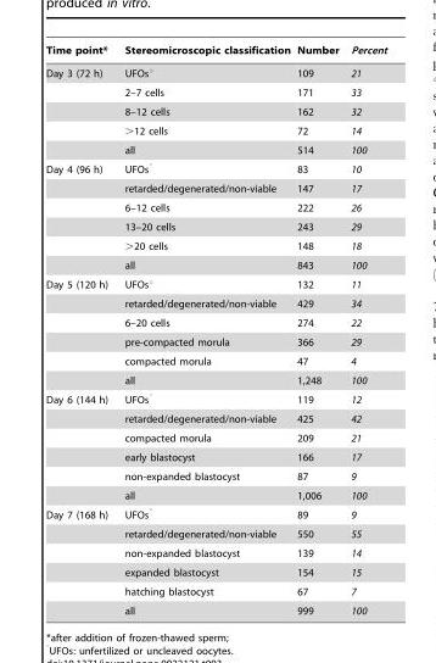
<table><thead><tr><td>Time point*</td><td>Stereomicroscopic classification</td><td>Number</td><td>Percent</td></tr></thead><tbody><tr><td rowspan="5">Day 3 (72 h)</td><td>UFOs°</td><td>109</td><td>21</td></tr><tr><td>2–7 cells</td><td>171</td><td>33</td></tr><tr><td>8–12 cells</td><td>162</td><td>32</td></tr><tr><td>&gt;12 cells</td><td>72</td><td>14</td></tr><tr><td>all</td><td>514</td><td>100</td></tr><tr><td rowspan="6">Day 4 (96 h)</td><td>UFOs°</td><td>83</td><td>10</td></tr><tr><td>retarded/degenerated/non-viable</td><td>147</td><td>17</td></tr><tr><td>6–12 cells</td><td>222</td><td>26</td></tr><tr><td>13–20 cells</td><td>243</td><td>29</td></tr><tr><td>&gt;20 cells</td><td>148</td><td>18</td></tr><tr><td>all</td><td>843</td><td>100</td></tr><tr><td rowspan="6">Day 5 (120 h)</td><td>UFOs°</td><td>132</td><td>11</td></tr><tr><td>retarded/degenerated/non-viable</td><td>429</td><td>34</td></tr><tr><td>6–20 cells</td><td>274</td><td>22</td></tr><tr><td>pre-compacted morula</td><td>366</td><td>29</td></tr><tr><td>compacted morula</td><td>47</td><td>4</td></tr><tr><td>all</td><td>1,248</td><td>100</td></tr><tr><td rowspan="6">Day 6 (144 h)</td><td>UFOs°</td><td>119</td><td>12</td></tr><tr><td>retarded/degenerated/non-viable</td><td>425</td><td>42</td></tr><tr><td>compacted morula</td><td>209</td><td>21</td></tr><tr><td>early blastocyst</td><td>166</td><td>17</td></tr><tr><td>non-expanded blastocyst</td><td>87</td><td>9</td></tr><tr><td>all</td><td>1,006</td><td>100</td></tr><tr><td rowspan="6">Day 7 (168 h)</td><td>UFOs°</td><td>89</td><td>9</td></tr><tr><td>retarded/degenerated/non-viable</td><td>550</td><td>55</td></tr><tr><td>non-expanded blastocyst</td><td>139</td><td>14</td></tr><tr><td>expanded blastocyst</td><td>154</td><td>15</td></tr><tr><td>hatching blastocyst</td><td>67</td><td>7</td></tr><tr><td>all</td><td>999</td><td>100</td></tr></tbody></table>